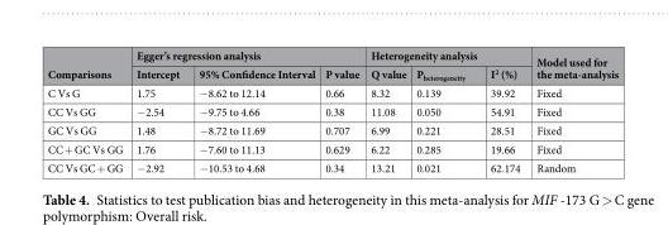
<table><thead><tr><td rowspan="2">Comparisons</td><td colspan="3">Egger’s regression analysis</td><td colspan="3">Heterogeneity analysis</td><td rowspan="2">Model used for the meta-analysis</td></tr><tr><td>Intercept</td><td>95% Confidence Interval</td><td>P value</td><td>Q value</td><td>P<sub>heterogeneity</sub></td><td>I<sup>2</sup> (%)</td></tr></thead><tbody><tr><td>C Vs G</td><td>1.75</td><td>−8.62 to 12.14</td><td>0.66</td><td>8.32</td><td>0.139</td><td>39.92</td><td>Fixed</td></tr><tr><td>CC Vs GG</td><td>−2.54</td><td>−9.75 to 4.66</td><td>0.38</td><td>11.08</td><td>0.050</td><td>54.91</td><td>Fixed</td></tr><tr><td>GC Vs GG</td><td>1.48</td><td>−8.72 to 11.69</td><td>0.707</td><td>6.99</td><td>0.221</td><td>28.51</td><td>Fixed</td></tr><tr><td>CC + GC Vs GG</td><td>1.76</td><td>−7.60 to 11.13</td><td>0.629</td><td>6.22</td><td>0.285</td><td>19.66</td><td>Fixed</td></tr><tr><td>CC Vs GC + GG</td><td>−2.92</td><td>−10.53 to 4.68</td><td>0.34</td><td>13.21</td><td>0.021</td><td>62.174</td><td>Random</td></tr></tbody></table>